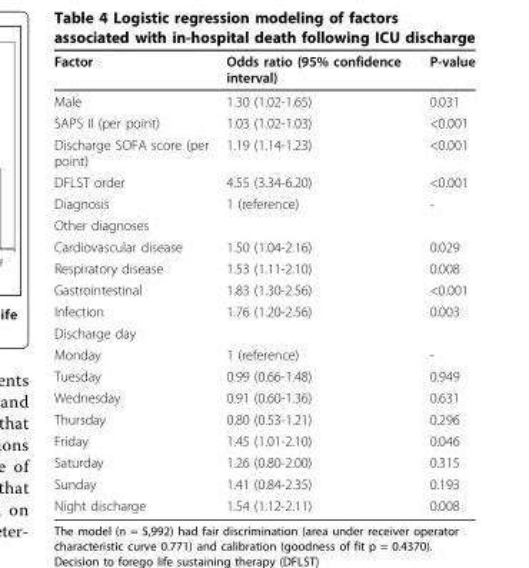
<table><thead><tr><td>Factor</td><td>Odds ratio (95% confidence interval)</td><td>P-value</td></tr></thead><tbody><tr><td>Male</td><td>1.30 (1.02-1.65)</td><td>0.031</td></tr><tr><td>SAPS II (per point)</td><td>1.03 (1.02-1.03)</td><td>&lt;0.001</td></tr><tr><td>Discharge SOFA score (per point)</td><td>1.19 (1.14-1.23)</td><td>&lt;0.001</td></tr><tr><td>DFLST order</td><td>4.55 (3.34-6.20)</td><td>&lt;0.001</td></tr><tr><td>Diagnosis</td><td>1 (reference)</td><td>-</td></tr><tr><td colspan="3">Other diagnoses</td></tr><tr><td>Cardiovascular disease</td><td>1.50 (1.04-2.16)</td><td>0.029</td></tr><tr><td>Respiratory disease</td><td>1.53 (1.11-2.10)</td><td>0.008</td></tr><tr><td>Gastrointestinal</td><td>1.83 (1.30-2.56)</td><td>&lt;0.001</td></tr><tr><td>Infection</td><td>1.76 (1.20-2.56)</td><td>0.003</td></tr><tr><td colspan="3">Discharge day</td></tr><tr><td>Monday</td><td>1 (reference)</td><td>-</td></tr><tr><td>Tuesday</td><td>0.99 (0.66-1.48)</td><td>0.949</td></tr><tr><td>Wednesday</td><td>0.91 (0.60-1.36)</td><td>0.631</td></tr><tr><td>Thursday</td><td>0.80 (0.53-1.21)</td><td>0.296</td></tr><tr><td>Friday</td><td>1.45 (1.01-2.10)</td><td>0.046</td></tr><tr><td>Saturday</td><td>1.26 (0.80-2.00)</td><td>0.315</td></tr><tr><td>Sunday</td><td>1.41 (0.84-2.35)</td><td>0.193</td></tr><tr><td>Night discharge</td><td>1.54 (1.12-2.11)</td><td>0.008</td></tr></tbody></table>